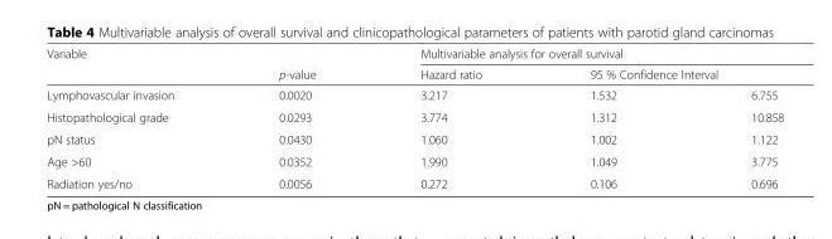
<table><thead><tr><td rowspan="3">Variable Lymphovascular invasion</td><td rowspan="3">p-value 0.0020</td><td colspan="3">Multivariable analysis for overall survival</td></tr><tr><td rowspan="2">Hazard ratio 3.217</td><td colspan="2">95 % Confidence Interval</td></tr><tr><td>1.532</td><td>6.755</td></tr></thead><tbody><tr><td>Histopathological grade</td><td>0.0293</td><td>3.774</td><td>1.312</td><td>10.858</td></tr><tr><td>pN status</td><td>0.0430</td><td>1.060</td><td>1.002</td><td>1.122</td></tr><tr><td>Age &gt;60</td><td>0.0352</td><td>1.990</td><td>1.049</td><td>3.775</td></tr><tr><td>Radiation yes/no</td><td>0.0056</td><td>0.272</td><td>0.106</td><td>0.696</td></tr></tbody></table>